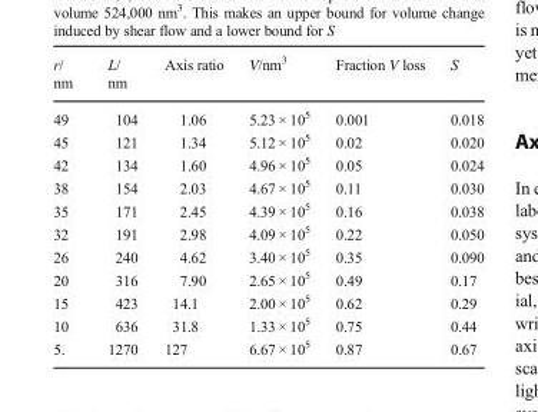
<table><thead><tr><td>r/ nm</td><td>L/ nm</td><td>Axis ratio</td><td>V/nm<sup>3</sup></td><td>Fraction V loss</td><td>S</td></tr></thead><tbody><tr><td>49</td><td>104</td><td>1.06</td><td>5.23 × 10<sup>5</sup></td><td>0.001</td><td>0.018</td></tr><tr><td>45</td><td>121</td><td>1.34</td><td>5.12 × 10<sup>5</sup></td><td>0.02</td><td>0.020</td></tr><tr><td>42</td><td>134</td><td>1.60</td><td>4.96 × 10<sup>5</sup></td><td>0.05</td><td>0.024</td></tr><tr><td>38</td><td>154</td><td>2.03</td><td>4.67 × 10<sup>5</sup></td><td>0.11</td><td>0.030</td></tr><tr><td>35</td><td>171</td><td>2.45</td><td>4.39 × 10<sup>5</sup></td><td>0.16</td><td>0.038</td></tr><tr><td>32</td><td>191</td><td>2.98</td><td>4.09 × 10<sup>5</sup></td><td>0.22</td><td>0.050</td></tr><tr><td>26</td><td>240</td><td>4.62</td><td>3.40 × 10<sup>5</sup></td><td>0.35</td><td>0.090</td></tr><tr><td>20</td><td>316</td><td>7.90</td><td>2.65 × 10<sup>5</sup></td><td>0.49</td><td>0.17</td></tr><tr><td>15</td><td>423</td><td>14.1</td><td>2.00 × 10<sup>5</sup></td><td>0.62</td><td>0.29</td></tr><tr><td>10</td><td>636</td><td>31.8</td><td>1.33 × 10<sup>5</sup></td><td>0.75</td><td>0.44</td></tr><tr><td>5.</td><td>1270</td><td>127</td><td>6.67 × 10<sup>5</sup></td><td>0.87</td><td>0.67</td></tr></tbody></table>